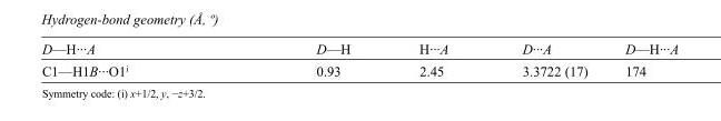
<table><tbody><tr><td>D—H···A</td><td>D—H</td><td>H···A</td><td>D···A</td><td>D—H···A</td></tr><tr><td>C1—H1B···O1<sup>i</sup></td><td>0.93</td><td>2.45</td><td>3.3722 (17)</td><td>174</td></tr></tbody></table>